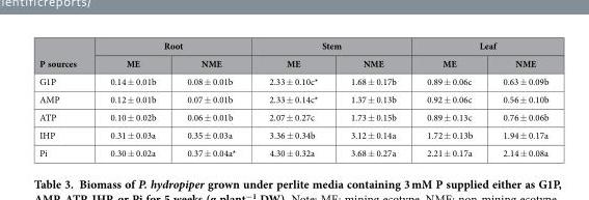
<table><thead><tr><td rowspan="2">P sources</td><td colspan="2">Root</td><td colspan="2">Stem</td><td colspan="2">Leaf</td></tr><tr><td>ME</td><td>NME</td><td>ME</td><td>NME</td><td>ME</td><td>NME</td></tr></thead><tbody><tr><td>G1P</td><td>0.14 ± 0.01b</td><td>0.08 ± 0.01b</td><td>2.33 ± 0.10c*</td><td>1.68 ± 0.17b</td><td>0.89 ± 0.06c</td><td>0.63 ± 0.09b</td></tr><tr><td>AMP</td><td>0.12 ± 0.01b</td><td>0.07 ± 0.01b</td><td>2.33 ± 0.14c*</td><td>1.37 ± 0.13b</td><td>0.92 ± 0.06c</td><td>0.56 ± 0.10b</td></tr><tr><td>ATP</td><td>0.10 ± 0.02b</td><td>0.06 ± 0.01b</td><td>2.07 ± 0.27c</td><td>1.73 ± 0.15b</td><td>0.89 ± 0.13c</td><td>0.76 ± 0.06b</td></tr><tr><td>IHP</td><td>0.31 ± 0.03a</td><td>0.35 ± 0.03a</td><td>3.36 ± 0.34b</td><td>3.12 ± 0.14a</td><td>1.72 ± 0.13b</td><td>1.94 ± 0.17a</td></tr><tr><td>Pi</td><td>0.30 ± 0.02a</td><td>0.37 ± 0.04a*</td><td>4.30 ± 0.32a</td><td>3.68 ± 0.27a</td><td>2.21 ± 0.17a</td><td>2.14 ± 0.08a</td></tr></tbody></table>